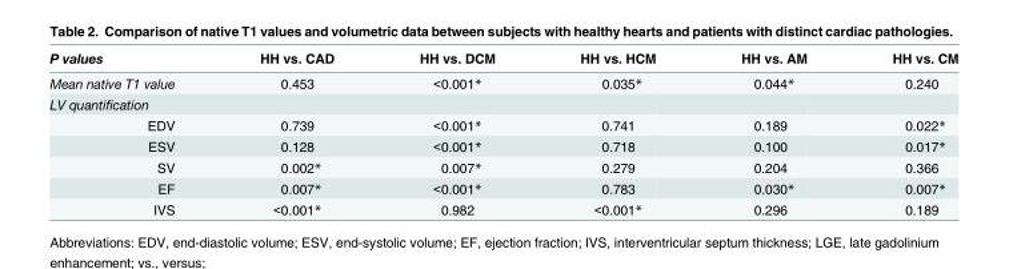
<table><thead><tr><td>P values</td><td>HH vs. CAD</td><td>HH vs. DCM</td><td>HH vs. HCM</td><td>HH vs. AM</td><td>HH vs. CM</td></tr></thead><tbody><tr><td>Mean native T1 value</td><td>0.453</td><td>&lt;0.001*</td><td>0.035*</td><td>0.044*</td><td>0.240</td></tr><tr><td colspan="6">LV quantification</td></tr><tr><td>EDV</td><td>0.739</td><td>&lt;0.001*</td><td>0.741</td><td>0.189</td><td>0.022*</td></tr><tr><td>ESV</td><td>0.128</td><td>&lt;0.001*</td><td>0.718</td><td>0.100</td><td>0.017*</td></tr><tr><td>SV</td><td>0.002*</td><td>0.007*</td><td>0.279</td><td>0.204</td><td>0.366</td></tr><tr><td>EF</td><td>0.007*</td><td>&lt;0.001*</td><td>0.783</td><td>0.030*</td><td>0.007*</td></tr><tr><td>IVS</td><td>&lt;0.001*</td><td>0.982</td><td>&lt;0.001*</td><td>0.296</td><td>0.189</td></tr></tbody></table>